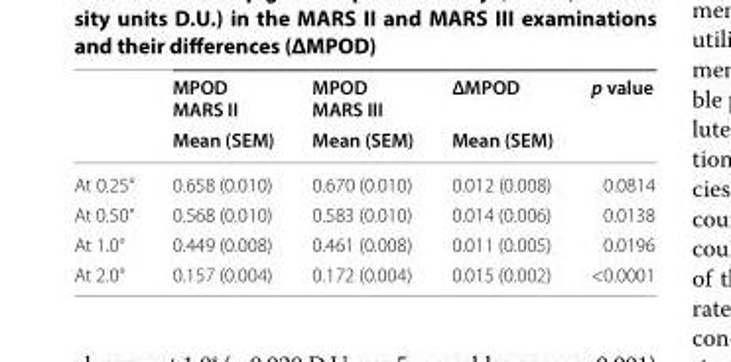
<table><thead><tr><td rowspan="2"></td><td rowspan="2">MPOD MARS II Mean (SEM)</td><td rowspan="2">MPOD MARS III Mean (SEM)</td><td rowspan="2">ΔMPOD Mean (SEM)</td><td rowspan="2">p value</td></tr><tr></tr></thead><tbody><tr><td>At 0.25°</td><td>0.658 (0.010)</td><td>0.670 (0.010)</td><td>0.012 (0.008)</td><td>0.0814</td></tr><tr><td>At 0.50°</td><td>0.568 (0.010)</td><td>0.583 (0.010)</td><td>0.014 (0.006)</td><td>0.0138</td></tr><tr><td>At 1.0°</td><td>0.449 (0.008)</td><td>0.461 (0.008)</td><td>0.011 (0.005)</td><td>0.0196</td></tr><tr><td>At 2.0°</td><td>0.157 (0.004)</td><td>0.172 (0.004)</td><td>0.015 (0.002)</td><td>&lt;0.0001</td></tr></tbody></table>